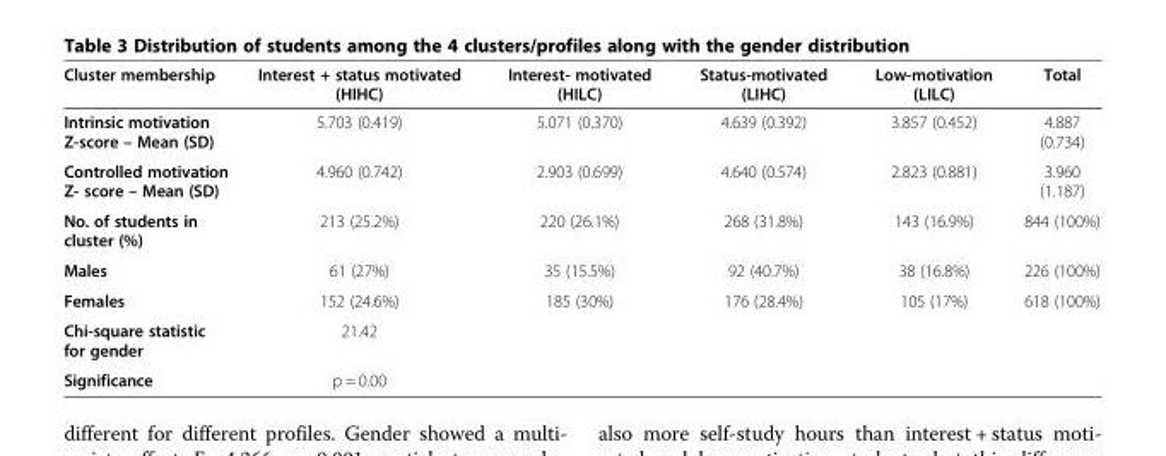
<table><thead><tr><td>Cluster membership</td><td>Interest + status motivated (HIHC)</td><td>Interest- motivated (HILC)</td><td>Status-motivated (LIHC)</td><td>Low-motivation (LILC)</td><td>Total</td></tr></thead><tbody><tr><td>Intrinsic motivation Z-score – Mean (SD)</td><td>5.703 (0.419)</td><td>5.071 (0.370)</td><td>4.639 (0.392)</td><td>3.857 (0.452)</td><td>4.887 (0.734)</td></tr><tr><td>Controlled motivation Z- score – Mean (SD)</td><td>4.960 (0.742)</td><td>2.903 (0.699)</td><td>4.640 (0.574)</td><td>2.823 (0.881)</td><td>3.960 (1.187)</td></tr><tr><td>No. of students in cluster (%)</td><td>213 (25.2%)</td><td>220 (26.1%)</td><td>268 (31.8%)</td><td>143 (16.9%)</td><td>844 (100%)</td></tr><tr><td>Males</td><td>61 (27%)</td><td>35 (15.5%)</td><td>92 (40.7%)</td><td>38 (16.8%)</td><td>226 (100%)</td></tr><tr><td>Females</td><td>152 (24.6%)</td><td>185 (30%)</td><td>176 (28.4%)</td><td>105 (17%)</td><td>618 (100%)</td></tr><tr><td>Chi-square statistic for gender</td><td>21.42</td><td></td><td></td><td></td><td></td></tr><tr><td>Significance</td><td>p = 0.00</td><td></td><td></td><td colspan="2"></td></tr></tbody></table>